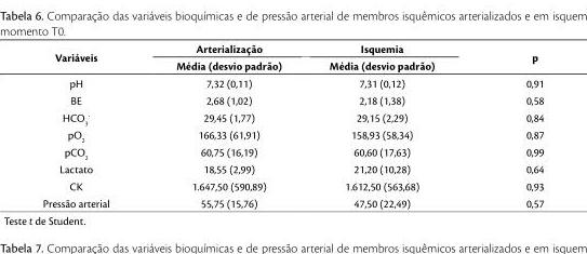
<table><thead><tr><td rowspan="2">Variáveis</td><td rowspan="2">Arterialização Média (desvio padrão)</td><td rowspan="2">Isquemia Média (desvio padrão)</td><td rowspan="2">p</td></tr><tr></tr></thead><tbody><tr><td>pH</td><td>7,32 (0,11)</td><td>7,31 (0,12)</td><td>0,91</td></tr><tr><td>BE</td><td>2,68 (1,02)</td><td>2,18 (1,38)</td><td>0,58</td></tr><tr><td>HCO<sub>3</sub> <sup>-</sup></td><td>29,45 (1,77)</td><td>29,15 (2,29)</td><td>0,84</td></tr><tr><td>pO<sub>2</sub></td><td>166,33 (61,91)</td><td>158,93 (58,34)</td><td>0,87</td></tr><tr><td>pCO<sub>2</sub></td><td>60,75 (16,19)</td><td>60,60 (17,63)</td><td>0,99</td></tr><tr><td>Lactato</td><td>18,55 (2,99)</td><td>21,20 (10,28)</td><td>0,64</td></tr><tr><td>CK</td><td>1.647,50 (590,89)</td><td>1.612,50 (563,68)</td><td>0,93</td></tr><tr><td>Pressão arterial</td><td>55,75 (15,76)</td><td>47,50 (22,49)</td><td>0,57</td></tr></tbody></table>